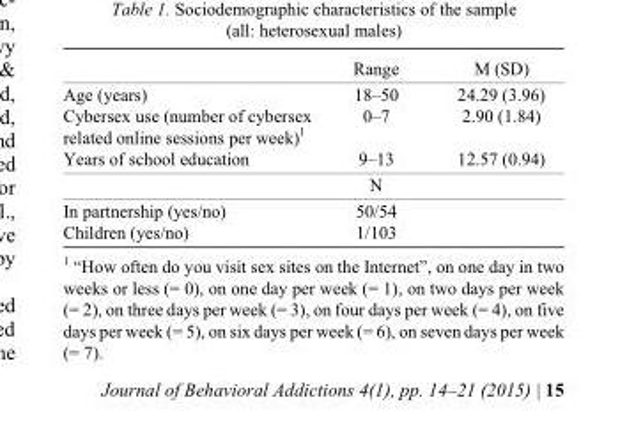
<table><thead><tr><td></td><td>Range</td><td>M (SD)</td></tr></thead><tbody><tr><td>Age (years)</td><td>18–50</td><td>24.29 (3.96)</td></tr><tr><td>Cybersex use (number of cybersex related online sessions per week)<sup>1</sup></td><td>0–7</td><td>2.90 (1.84)</td></tr><tr><td>Years of school education</td><td>9–13</td><td>12.57 (0.94)</td></tr><tr><td></td><td>N</td><td></td></tr><tr><td>In partnership (yes/no)</td><td>50/54</td><td></td></tr><tr><td>Children (yes/no)</td><td>1/103</td><td></td></tr><tr><td colspan="3">1 “How often do you visit sex sites on the Internet”, on one day in two weeks or less (= 0), on one day per week (= 1), on two days per week (= 2), on three days per week (= 3), on four days per week (= 4), on five days per week (= 5), on six days per week (= 6), on seven days per week (= 7).</td></tr></tbody></table>